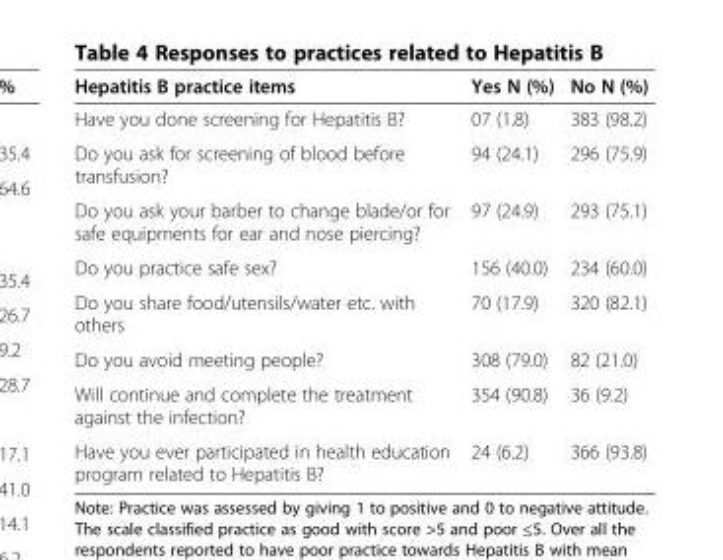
<table><thead><tr><td>Hepatitis B practice items</td><td>Yes N (%)</td><td>No N (%)</td></tr></thead><tbody><tr><td>Have you done screening for Hepatitis B?</td><td>07 (1.8)</td><td>383 (98.2)</td></tr><tr><td>Do you ask for screening of blood before transfusion?</td><td>94 (24.1)</td><td>296 (75.9)</td></tr><tr><td>Do you ask your barber to change blade/or for safe equipments for ear and nose piercing?</td><td>97 (24.9)</td><td>293 (75.1)</td></tr><tr><td>Do you practice safe sex?</td><td>156 (40.0)</td><td>234 (60.0)</td></tr><tr><td>Do you share food/utensils/water etc. with others</td><td>70 (17.9)</td><td>320 (82.1)</td></tr><tr><td>Do you avoid meeting people?</td><td>308 (79.0)</td><td>82 (21.0)</td></tr><tr><td>Will continue and complete the treatment against the infection?</td><td>354 (90.8)</td><td>36 (9.2)</td></tr><tr><td>Have you ever participated in health education program related to Hepatitis B?</td><td>24 (6.2)</td><td>366 (93.8)</td></tr></tbody></table>